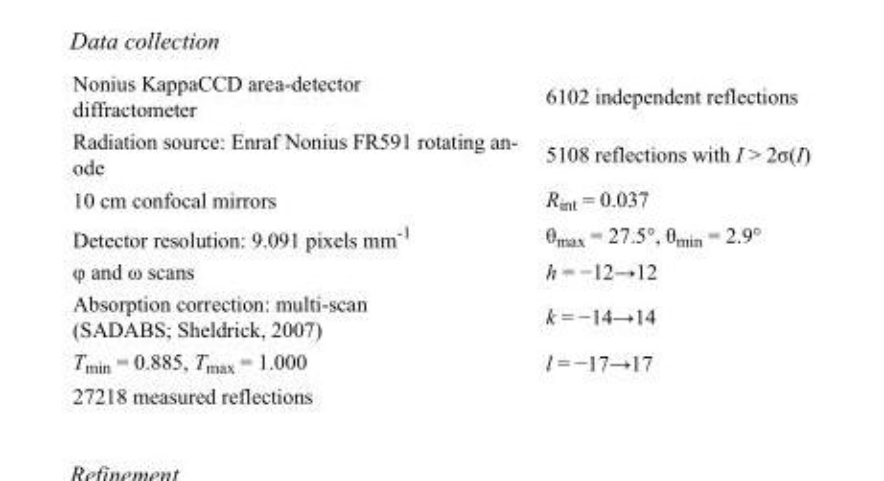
<table><tbody><tr><td>Nonius KappaCCD area-detector diffractometer</td><td>6102 independent reflections</td></tr><tr><td>Radiation source: Enraf Nonius FR591 rotating an- ode</td><td>5108 reflections with I &gt; 2σ(I)</td></tr><tr><td>10 cm confocal mirrors</td><td>R<sub>int</sub> = 0.037</td></tr><tr><td>Detector resolution: 9.091 pixels mm<sup>-1</sup></td><td>θ<sub>max</sub> = 27.5°, θ<sub>min</sub> = 2.9°</td></tr><tr><td>φ and ω scans</td><td>h = −12→12</td></tr><tr><td>Absorption correction: multi-scan (SADABS; Sheldrick, 2007)</td><td>k = −14→14</td></tr><tr><td>T<sub>min</sub> = 0.885, T<sub>max</sub> = 1.000</td><td>l = −17→17</td></tr><tr><td>27218 measured reflections</td><td></td></tr></tbody></table>